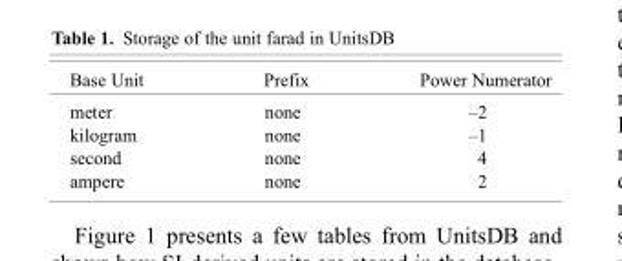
<table><thead><tr><td>Base Unit</td><td>Prefix</td><td>Power Numerator</td></tr></thead><tbody><tr><td>meter</td><td>none</td><td>–2</td></tr><tr><td>kilogram</td><td>none</td><td>–1</td></tr><tr><td>second</td><td>none</td><td>4</td></tr><tr><td>ampere</td><td>none</td><td>2</td></tr></tbody></table>